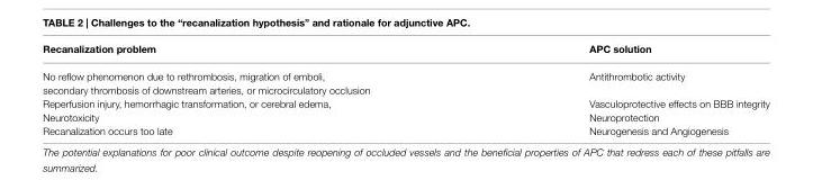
<table><thead><tr><td>Recanalization problem</td><td>APC solution</td></tr></thead><tbody><tr><td>No reflow phenomenon due to rethrombosis, migration of emboli, secondary thrombosis of downstream arteries, or microcirculatory occlusion</td><td>Antithrombotic activity</td></tr><tr><td>Reperfusion injury, hemorrhagic transformation, or cerebral edema,</td><td>Vasculoprotective effects on BBB integrity</td></tr><tr><td>Neurotoxicity</td><td>Neuroprotection</td></tr><tr><td>Recanalization occurs too late</td><td>Neurogenesis and Angiogenesis</td></tr></tbody></table>